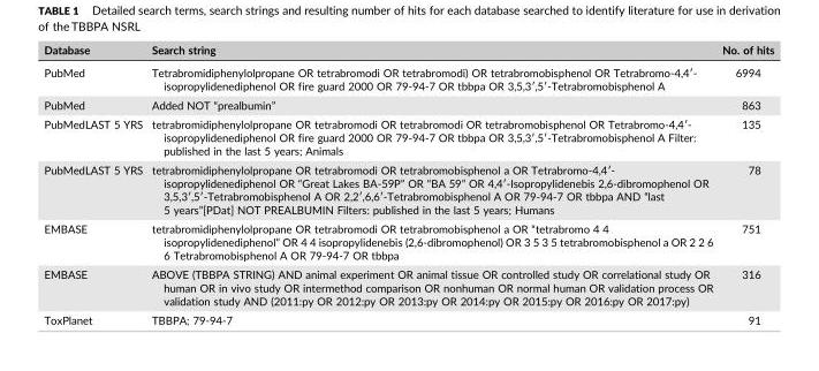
<table><thead><tr><td>Database</td><td>Search string</td><td>No. of hits</td></tr></thead><tbody><tr><td>PubMed</td><td>Tetrabromidiphenylolpropane OR tetrabromodi OR tetrabromodi) OR tetrabromobisphenol OR Tetrabromo‐4,4′‐ isopropylidenediphenol OR fire guard 2000 OR 79‐94‐7 OR tbbpa OR 3,5,3′,5′‐Tetrabromobisphenol A</td><td>6994</td></tr><tr><td>PubMed</td><td>Added NOT “prealbumin”</td><td>863</td></tr><tr><td>PubMedLAST 5 YRS</td><td>tetrabromidiphenylolpropane OR tetrabromodi OR tetrabromodi OR tetrabromobisphenol OR Tetrabromo‐4,4′‐ isopropylidenediphenol OR fire guard 2000 OR 79‐94‐7 OR tbbpa OR 3,5,3′,5′‐Tetrabromobisphenol A Filter: published in the last 5 years; Animals</td><td>135</td></tr><tr><td>PubMedLAST 5 YRS</td><td>tetrabromidiphenylolpropane OR tetrabromodi OR tetrabromobisphenol a OR Tetrabromo‐4,4′‐ isopropylidenediphenol OR “Great Lakes BA‐59P” OR “BA 59” OR 4,4′‐Isopropylidenebis 2,6‐dibromophenol OR 3,5,3′,5′‐Tetrabromobisphenol A OR 2,2′,6,6′‐Tetrabromobisphenol A OR 79‐94‐7 OR tbbpa AND “last 5 years”[PDat] NOT PREALBUMIN Filters: published in the last 5 years; Humans</td><td>78</td></tr><tr><td>EMBASE</td><td>tetrabromidiphenylolpropane OR tetrabromodi OR tetrabromobisphenol a OR “tetrabromo 4 4 isopropylidenediphenol” OR 4 4 isopropylidenebis (2,6‐dibromophenol) OR 3 5 3 5 tetrabromobisphenol a OR 2 2 6 6 Tetrabromobisphenol A OR 79‐94‐7 OR tbbpa</td><td>751</td></tr><tr><td>EMBASE</td><td>ABOVE (TBBPA STRING) AND animal experiment OR animal tissue OR controlled study OR correlational study OR human OR in vivo study OR intermethod comparison OR nonhuman OR normal human OR validation process OR validation study AND (2011:py OR 2012:py OR 2013:py OR 2014:py OR 2015:py OR 2016:py OR 2017:py)</td><td>316</td></tr><tr><td>ToxPlanet</td><td>TBBPA; 79‐94‐7</td><td>91</td></tr></tbody></table>